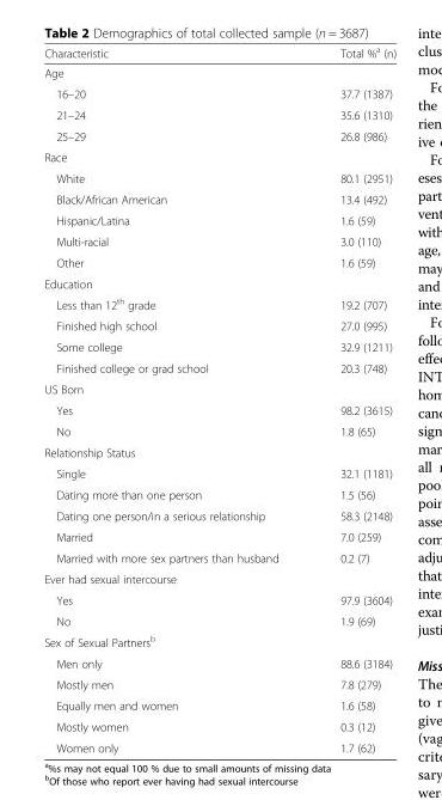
<table><thead><tr><td>Characteristic</td><td>Total %<sup>a</sup> (n)</td></tr></thead><tbody><tr><td colspan="2">Age</td></tr><tr><td>16–20</td><td>37.7 (1387)</td></tr><tr><td>21–24</td><td>35.6 (1310)</td></tr><tr><td>25–29</td><td>26.8 (986)</td></tr><tr><td colspan="2">Race</td></tr><tr><td>White</td><td>80.1 (2951)</td></tr><tr><td>Black/African American</td><td>13.4 (492)</td></tr><tr><td>Hispanic/Latina</td><td>1.6 (59)</td></tr><tr><td>Multi-racial</td><td>3.0 (110)</td></tr><tr><td>Other</td><td>1.6 (59)</td></tr><tr><td colspan="2">Education</td></tr><tr><td>Less than 12<sup>th</sup> grade</td><td>19.2 (707)</td></tr><tr><td>Finished high school</td><td>27.0 (995)</td></tr><tr><td>Some college</td><td>32.9 (1211)</td></tr><tr><td>Finished college or grad school</td><td>20.3 (748)</td></tr><tr><td colspan="2">US Born</td></tr><tr><td>Yes</td><td>98.2 (3615)</td></tr><tr><td>No</td><td>1.8 (65)</td></tr><tr><td colspan="2">Relationship Status</td></tr><tr><td>Single</td><td>32.1 (1181)</td></tr><tr><td>Dating more than one person</td><td>1.5 (56)</td></tr><tr><td>Dating one person/in a serious relationship</td><td>58.3 (2148)</td></tr><tr><td>Married</td><td>7.0 (259)</td></tr><tr><td>Married with more sex partners than husband</td><td>0.2 (7)</td></tr><tr><td colspan="2">Ever had sexual intercourse</td></tr><tr><td>Yes</td><td>97.9 (3604)</td></tr><tr><td>No</td><td>1.9 (69)</td></tr><tr><td colspan="2">Sex of Sexual Partners<sup>b</sup></td></tr><tr><td>Men only</td><td>88.6 (3184)</td></tr><tr><td>Mostly men</td><td>7.8 (279)</td></tr><tr><td>Equally men and women</td><td>1.6 (58)</td></tr><tr><td>Mostly women</td><td>0.3 (12)</td></tr><tr><td>Women only</td><td>1.7 (62)</td></tr></tbody></table>